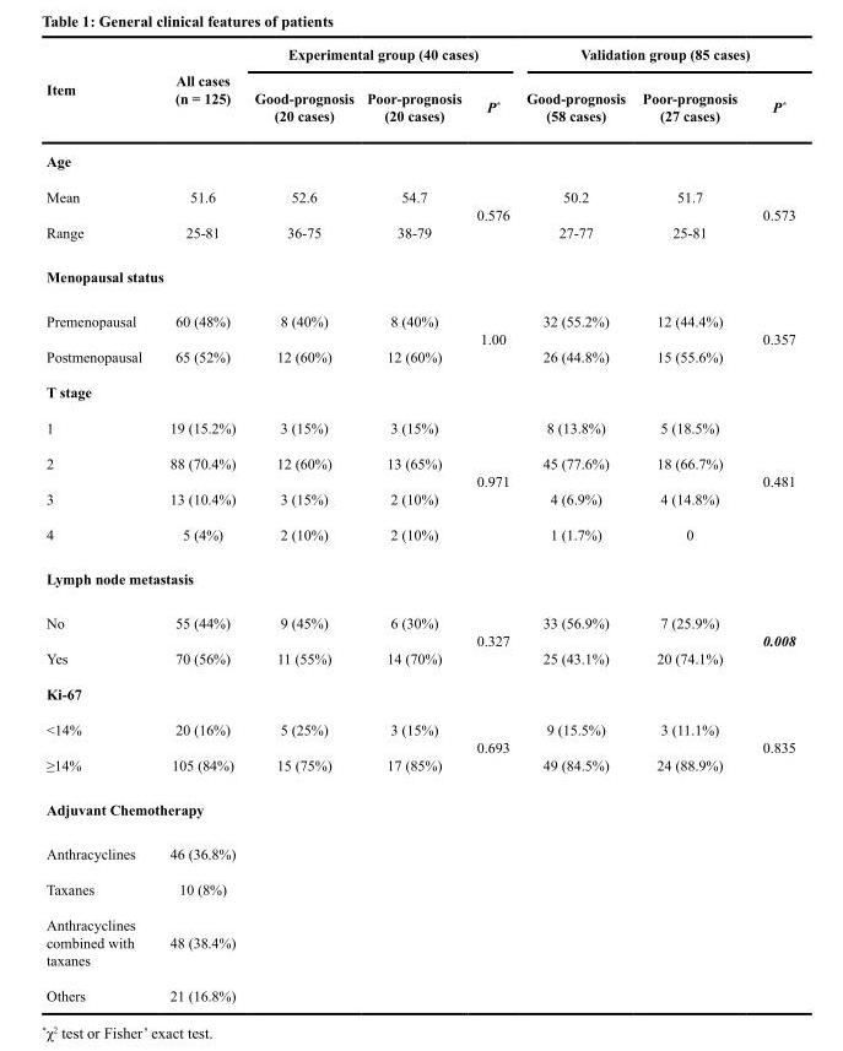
<table><thead><tr><td rowspan="2">Item</td><td rowspan="2">All cases (n = 125)</td><td colspan="3">Experimental group (40 cases)</td><td colspan="3">Validation group (85 cases)</td></tr><tr><td>Good-prognosis (20 cases)</td><td>Poor-prognosis (20 cases)</td><td>P*</td><td>Good-prognosis (58 cases)</td><td>Poor-prognosis (27 cases)</td><td>P*</td></tr></thead><tbody><tr><td colspan="8">Age</td></tr><tr><td>Mean</td><td>51.6</td><td>52.6</td><td>54.7</td><td rowspan="2">0.576</td><td>50.2</td><td>51.7</td><td rowspan="2">0.573</td></tr><tr><td>Range</td><td>25-81</td><td>36-75</td><td>38-79</td><td>27-77</td><td>25-81</td></tr><tr><td colspan="8">Menopausal status</td></tr><tr><td>Premenopausal</td><td>60 (48%)</td><td>8 (40%)</td><td>8 (40%)</td><td rowspan="2">1.00</td><td>32 (55.2%)</td><td>12 (44.4%)</td><td rowspan="2">0.357</td></tr><tr><td>Postmenopausal</td><td>65 (52%)</td><td>12 (60%)</td><td>12 (60%)</td><td>26 (44.8%)</td><td>15 (55.6%)</td></tr><tr><td colspan="8">T stage</td></tr><tr><td>1</td><td>19 (15.2%)</td><td>3 (15%)</td><td>3 (15%)</td><td rowspan="4">0.971</td><td>8 (13.8%)</td><td>5 (18.5%)</td><td rowspan="4">0.481</td></tr><tr><td>2</td><td>88 (70.4%)</td><td>12 (60%)</td><td>13 (65%)</td><td>45 (77.6%)</td><td>18 (66.7%)</td></tr><tr><td>3</td><td>13 (10.4%)</td><td>3 (15%)</td><td>2 (10%)</td><td>4 (6.9%)</td><td>4 (14.8%)</td></tr><tr><td>4</td><td>5 (4%)</td><td>2 (10%)</td><td>2 (10%)</td><td>1 (1.7%)</td><td>0</td></tr><tr><td colspan="8">Lymph node metastasis</td></tr><tr><td>No</td><td>55 (44%)</td><td>9 (45%)</td><td>6 (30%)</td><td rowspan="2">0.327</td><td>33 (56.9%)</td><td>7 (25.9%)</td><td rowspan="2">0.008</td></tr><tr><td>Yes</td><td>70 (56%)</td><td>11 (55%)</td><td>14 (70%)</td><td>25 (43.1%)</td><td>20 (74.1%)</td></tr><tr><td colspan="8">Ki-67</td></tr><tr><td>&lt;14%</td><td>20 (16%)</td><td>5 (25%)</td><td>3 (15%)</td><td rowspan="2">0.693</td><td>9 (15.5%)</td><td>3 (11.1%)</td><td rowspan="2">0.835</td></tr><tr><td>≥14%</td><td>105 (84%)</td><td>15 (75%)</td><td>17 (85%)</td><td>49 (84.5%)</td><td>24 (88.9%)</td></tr><tr><td colspan="8">Adjuvant Chemotherapy</td></tr><tr><td>Anthracyclines</td><td>46 (36.8%)</td><td></td><td></td><td></td><td></td><td></td><td></td></tr><tr><td>Taxanes</td><td>10 (8%)</td><td></td><td></td><td></td><td></td><td></td><td></td></tr><tr><td>Anthracyclines combined with taxanes</td><td>48 (38.4%)</td><td></td><td></td><td></td><td></td><td></td><td></td></tr><tr><td>Others</td><td>21 (16.8%)</td><td></td><td></td><td></td><td></td><td></td><td></td></tr></tbody></table>